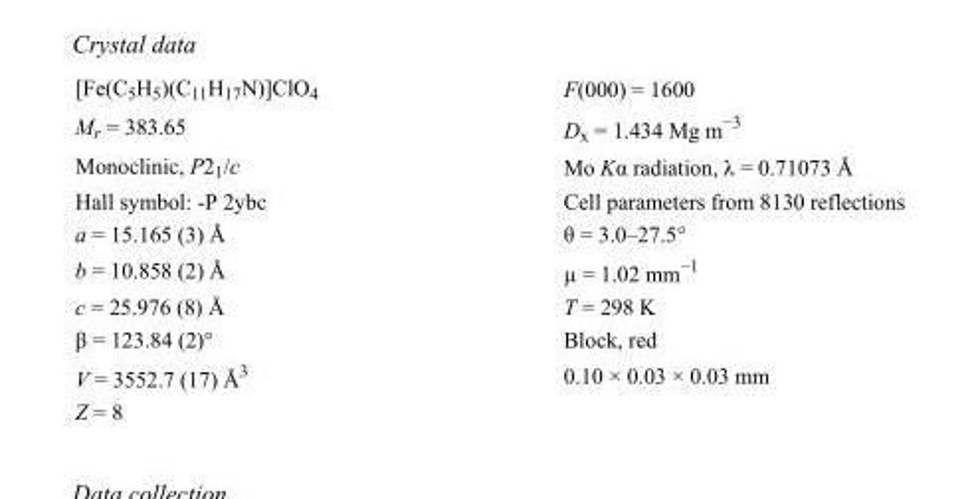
<table><tbody><tr><td>[Fe(C<sub>5</sub>H<sub>5</sub>)(C<sub>11</sub>H<sub>17</sub>N)]ClO<sub>4</sub></td><td>F(000) = 1600</td></tr><tr><td>M<sub>r</sub> = 383.65</td><td>D<sub>x</sub> = 1.434 Mg m<sup>−3</sup></td></tr><tr><td>Monoclinic, P2<sub>1</sub>/c</td><td>Mo Kα radiation, λ = 0.71073 Å</td></tr><tr><td>Hall symbol: -P 2ybc</td><td>Cell parameters from 8130 reflections</td></tr><tr><td>a = 15.165 (3) Å</td><td>θ = 3.0–27.5°</td></tr><tr><td>b = 10.858 (2) Å</td><td>µ = 1.02 mm<sup>−1</sup></td></tr><tr><td>c = 25.976 (8) Å</td><td>T = 298 K</td></tr><tr><td>β = 123.84 (2)°</td><td>Block, red</td></tr><tr><td>V = 3552.7 (17) Å<sup>3</sup></td><td>0.10 × 0.03 × 0.03 mm</td></tr><tr><td>Z = 8</td><td></td></tr></tbody></table>